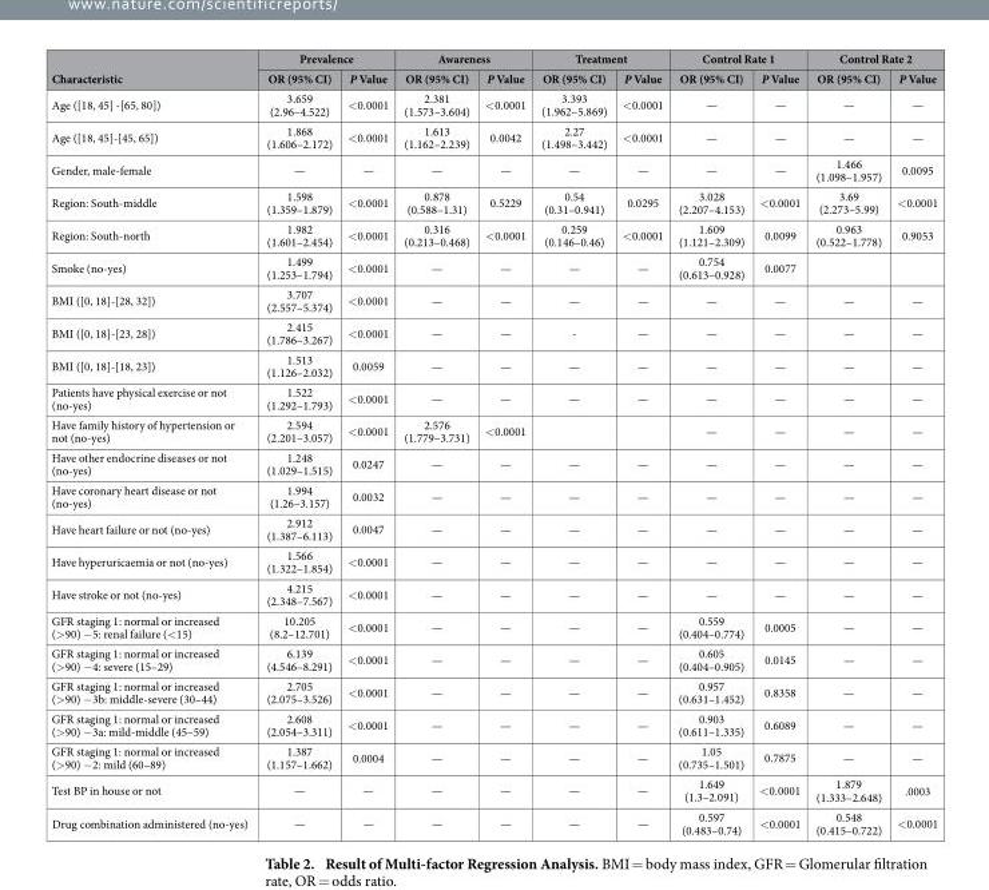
<table><thead><tr><td rowspan="2">Characteristic</td><td colspan="2">Prevalence</td><td colspan="2">Awareness</td><td colspan="2">Treatment</td><td colspan="2">Control Rate 1</td><td colspan="2">Control Rate 2</td></tr><tr><td>OR (95% CI)</td><td>P Value</td><td>OR (95% CI)</td><td>P Value</td><td>OR (95% CI)</td><td>P Value</td><td>OR (95% CI)</td><td>P Value</td><td>OR (95% CI)</td><td>P Value</td></tr></thead><tbody><tr><td>Age ([18, 45] -[65, 80])</td><td>3.659 (2.96–4.522)</td><td>&lt; 0.0001</td><td>2.381 (1.573–3.604)</td><td>&lt; 0.0001</td><td>3.393 (1.962–5.869)</td><td>&lt; 0.0001</td><td>—</td><td>—</td><td>—</td><td>—</td></tr><tr><td>Age ([18, 45]-[45, 65])</td><td>1.868 (1.606–2.172)</td><td>&lt; 0.0001</td><td>1.613 (1.162–2.239)</td><td>0.0042</td><td>2.27 (1.498–3.442)</td><td>&lt; 0.0001</td><td>—</td><td>—</td><td>—</td><td>—</td></tr><tr><td>Gender, male-female</td><td>—</td><td>—</td><td>—</td><td>—</td><td>—</td><td>—</td><td>—</td><td>—</td><td>1.466 (1.098–1.957)</td><td>0.0095</td></tr><tr><td>Region: South-middle</td><td>1.598 (1.359–1.879)</td><td>&lt; 0.0001</td><td>0.878 (0.588–1.31)</td><td>0.5229</td><td>0.54 (0.31–0.941)</td><td>0.0295</td><td>3.028 (2.207–4.153)</td><td>&lt; 0.0001</td><td>3.69 (2.273–5.99)</td><td>&lt; 0.0001</td></tr><tr><td>Region: South-north</td><td>1.982 (1.601–2.454)</td><td>&lt; 0.0001</td><td>0.316 (0.213–0.468)</td><td>&lt; 0.0001</td><td>0.259 (0.146–0.46)</td><td>&lt; 0.0001</td><td>1.609 (1.121–2.309)</td><td>0.0099</td><td>0.963 (0.522–1.778)</td><td>0.9053</td></tr><tr><td>Smoke (no-yes)</td><td>1.499 (1.253–1.794)</td><td>&lt; 0.0001</td><td>—</td><td>—</td><td>—</td><td>—</td><td>0.754 (0.613–0.928)</td><td>0.0077</td><td></td><td></td></tr><tr><td>BMI ([0, 18]-[28, 32])</td><td>3.707 (2.557–5.374)</td><td>&lt; 0.0001</td><td>—</td><td>—</td><td>—</td><td>—</td><td>—</td><td>—</td><td>—</td><td>—</td></tr><tr><td>BMI ([0, 18]-[23, 28])</td><td>2.415 (1.786–3.267)</td><td>&lt; 0.0001</td><td>—</td><td>—</td><td>-</td><td>—</td><td>—</td><td>—</td><td>—</td><td>—</td></tr><tr><td>BMI ([0, 18]-[18, 23])</td><td>1.513 (1.126–2.032)</td><td>0.0059</td><td>—</td><td>—</td><td>—</td><td>—</td><td>—</td><td>—</td><td>—</td><td>—</td></tr><tr><td>Patients have physical exercise or not (no-yes)</td><td>1.522 (1.292–1.793)</td><td>&lt; 0.0001</td><td>—</td><td>—</td><td>—</td><td>—</td><td>—</td><td>—</td><td>—</td><td>—</td></tr><tr><td>Have family history of hypertension or not (no-yes)</td><td>2.594 (2.201–3.057)</td><td>&lt; 0.0001</td><td>2.576 (1.779–3.731)</td><td>&lt; 0.0001</td><td></td><td></td><td>—</td><td>—</td><td>—</td><td>—</td></tr><tr><td>Have other endocrine diseases or not (no-yes)</td><td>1.248 (1.029–1.515)</td><td>0.0247</td><td>—</td><td>—</td><td>—</td><td>—</td><td>—</td><td>—</td><td>—</td><td>—</td></tr><tr><td>Have coronary heart disease or not (no-yes)</td><td>1.994 (1.26–3.157)</td><td>0.0032</td><td>—</td><td>—</td><td>—</td><td>—</td><td>—</td><td>—</td><td>—</td><td>—</td></tr><tr><td>Have heart failure or not (no-yes)</td><td>2.912 (1.387–6.113)</td><td>0.0047</td><td>—</td><td>—</td><td>—</td><td>—</td><td>—</td><td>—</td><td>—</td><td>—</td></tr><tr><td>Have hyperuricaemia or not (no-yes)</td><td>1.566 (1.322–1.854)</td><td>&lt; 0.0001</td><td>—</td><td>—</td><td>—</td><td>—</td><td>—</td><td>—</td><td>—</td><td>—</td></tr><tr><td>Have stroke or not (no-yes)</td><td>4.215 (2.348–7.567)</td><td>&lt; 0.0001</td><td>—</td><td>—</td><td>—</td><td>—</td><td>—</td><td>—</td><td>—</td><td>—</td></tr><tr><td>GFR staging 1: normal or increased (&gt; 90) − 5: renal failure (&lt; 15)</td><td>10.205 (8.2–12.701)</td><td>&lt; 0.0001</td><td>—</td><td>—</td><td>—</td><td>—</td><td>0.559 (0.404–0.774)</td><td>0.0005</td><td>—</td><td>—</td></tr><tr><td>GFR staging 1: normal or increased (&gt; 90) − 4: severe (15–29)</td><td>6.139 (4.546–8.291)</td><td>&lt; 0.0001</td><td>—</td><td>—</td><td>—</td><td>—</td><td>0.605 (0.404–0.905)</td><td>0.0145</td><td>—</td><td>—</td></tr><tr><td>GFR staging 1: normal or increased (&gt; 90) − 3b: middle-severe (30–44)</td><td>2.705 (2.075–3.526)</td><td>&lt; 0.0001</td><td>—</td><td>—</td><td>—</td><td>—</td><td>0.957 (0.631–1.452)</td><td>0.8358</td><td>—</td><td>—</td></tr><tr><td>GFR staging 1: normal or increased (&gt; 90) − 3a: mild-middle (45–59)</td><td>2.608 (2.054–3.311)</td><td>&lt; 0.0001</td><td>—</td><td>—</td><td>—</td><td>—</td><td>0.903 (0.611–1.335)</td><td>0.6089</td><td>—</td><td>—</td></tr><tr><td>GFR staging 1: normal or increased (&gt; 90) − 2: mild (60–89)</td><td>1.387 (1.157–1.662)</td><td>0.0004</td><td>—</td><td>—</td><td>—</td><td>—</td><td>1.05 (0.735–1.501)</td><td>0.7875</td><td>—</td><td>—</td></tr><tr><td>Test BP in house or not</td><td>—</td><td>—</td><td>—</td><td>—</td><td>—</td><td>—</td><td>1.649 (1.3–2.091)</td><td>&lt; 0.0001</td><td>1.879 (1.333–2.648)</td><td>.0003</td></tr><tr><td>Drug combination administered (no-yes)</td><td>—</td><td>—</td><td>—</td><td>—</td><td>—</td><td>—</td><td>0.597 (0.483–0.74)</td><td>&lt; 0.0001</td><td>0.548 (0.415–0.722)</td><td>&lt; 0.0001</td></tr></tbody></table>